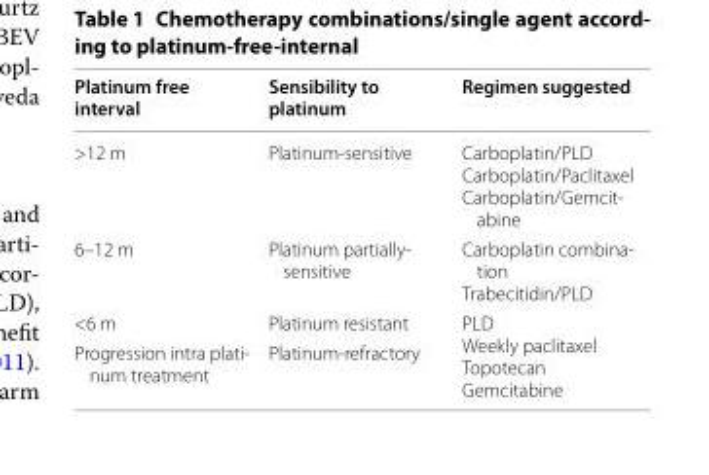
<table><thead><tr><td>Platinum free interval</td><td>Sensibility to platinum</td><td>Regimen suggested</td></tr></thead><tbody><tr><td>&gt;12 m</td><td>Platinum-sensitive</td><td>Carboplatin/PLD Carboplatin/Paclitaxel Carboplatin/Gemcit- abine</td></tr><tr><td>6–12 m</td><td>Platinum partially- sensitive</td><td>Carboplatin combina- tion Trabecitidin/PLD</td></tr><tr><td>&lt;6 m</td><td>Platinum resistant</td><td rowspan="2">PLD Weekly paclitaxel Topotecan Gemcitabine</td></tr><tr><td>Progression intra plati- num treatment</td><td>Platinum-refractory</td></tr></tbody></table>